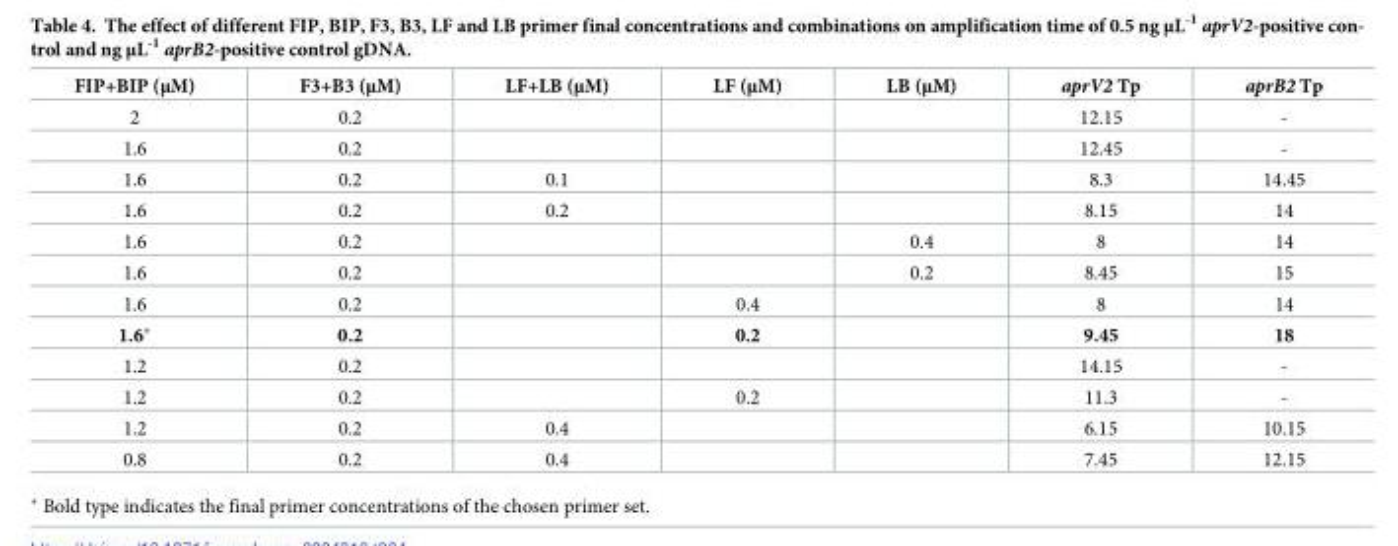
<table><thead><tr><td>FIP+BIP (μM)</td><td>F3+B3 (μM)</td><td>LF+LB (μM)</td><td>LF (μM)</td><td>LB (μM)</td><td>aprV2 Tp</td><td>aprB2 Tp</td></tr></thead><tbody><tr><td>2</td><td>0.2</td><td></td><td></td><td></td><td>12.15</td><td>-</td></tr><tr><td>1.6</td><td>0.2</td><td></td><td></td><td></td><td>12.45</td><td>-</td></tr><tr><td>1.6</td><td>0.2</td><td>0.1</td><td></td><td></td><td>8.3</td><td>14.45</td></tr><tr><td>1.6</td><td>0.2</td><td>0.2</td><td></td><td></td><td>8.15</td><td>14</td></tr><tr><td>1.6</td><td>0.2</td><td></td><td></td><td>0.4</td><td>8</td><td>14</td></tr><tr><td>1.6</td><td>0.2</td><td></td><td></td><td>0.2</td><td>8.45</td><td>15</td></tr><tr><td>1.6</td><td>0.2</td><td></td><td>0.4</td><td></td><td>8</td><td>14</td></tr><tr><td>1.6*</td><td>0.2</td><td></td><td>0.2</td><td></td><td>9.45</td><td>18</td></tr><tr><td>1.2</td><td>0.2</td><td></td><td></td><td></td><td>14.15</td><td>-</td></tr><tr><td>1.2</td><td>0.2</td><td></td><td>0.2</td><td></td><td>11.3</td><td>-</td></tr><tr><td>1.2</td><td>0.2</td><td>0.4</td><td></td><td></td><td>6.15</td><td>10.15</td></tr><tr><td>0.8</td><td>0.2</td><td>0.4</td><td></td><td></td><td>7.45</td><td>12.15</td></tr></tbody></table>